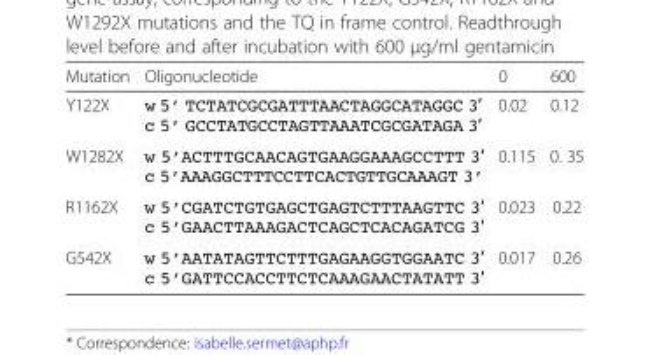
<table><thead><tr><td>Mutation</td><td>Oligonucleotide</td><td>0</td><td>600</td></tr></thead><tbody><tr><td>Y122X</td><td>w 5’ TCTATCGCGATTTAACTAGGCATAGGC 3′ c 5’ GCCTATGCCTAGTTAAATCGCGATAGA 3′</td><td>0.02</td><td>0.12</td></tr><tr><td>W1282X</td><td>w 5’ACTTTGCAACAGTGAAGGAAAGCCTTT 3′ c 5’AAAGGCTTTCCTTCACTGTTGCAAAGT 3’</td><td>0.115</td><td>0. 35</td></tr><tr><td>R1162X</td><td>w 5’CGATCTGTGAGCTGAGTCTTTAAGTTC 3′ c 5’GAACTTAAAGACTCAGCTCACAGATCG 3′</td><td>0.023</td><td>0.22</td></tr><tr><td>G542X</td><td>w 5’AATATAGTTCTTTGAGAAGGTGGAATC 3′ c 5’GATTCCACCTTCTCAAAGAACTATATT 3′</td><td>0.017</td><td>0.26</td></tr></tbody></table>